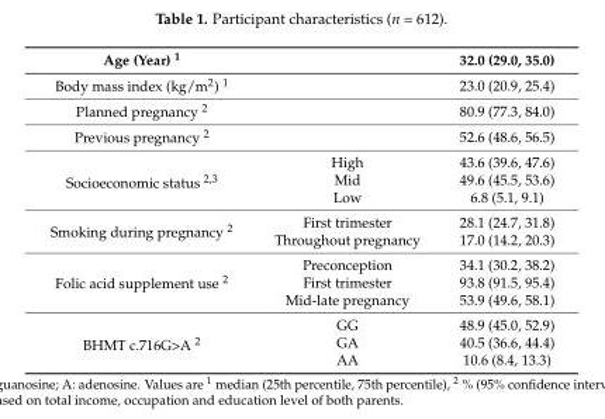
<table><thead><tr><td>Age (Year) <sup>1</sup></td><td></td><td>32.0 (29.0, 35.0)</td></tr></thead><tbody><tr><td>Body mass index (kg/m<sup>2</sup>) <sup>1</sup></td><td></td><td>23.0 (20.9, 25.4)</td></tr><tr><td>Planned pregnancy <sup>2</sup></td><td></td><td>80.9 (77.3, 84.0)</td></tr><tr><td>Previous pregnancy <sup>2</sup></td><td></td><td>52.6 (48.6, 56.5)</td></tr><tr><td rowspan="3">Socioeconomic status <sup>2,3</sup></td><td>High</td><td>43.6 (39.6, 47.6)</td></tr><tr><td>Mid</td><td>49.6 (45.5, 53.6)</td></tr><tr><td>Low</td><td>6.8 (5.1, 9.1)</td></tr><tr><td rowspan="2">Smoking during pregnancy <sup>2</sup></td><td>First trimester</td><td>28.1 (24.7, 31.8)</td></tr><tr><td>Throughout pregnancy</td><td>17.0 (14.2, 20.3)</td></tr><tr><td rowspan="3">Folic acid supplement use <sup>2</sup></td><td>Preconception</td><td>34.1 (30.2, 38.2)</td></tr><tr><td>First trimester</td><td>93.8 (91.5, 95.4)</td></tr><tr><td>Mid-late pregnancy</td><td>53.9 (49.6, 58.1)</td></tr><tr><td rowspan="3">BHMT c.716G&gt;A <sup>2</sup></td><td>GG</td><td>48.9 (45.0, 52.9)</td></tr><tr><td>GA</td><td>40.5 (36.6, 44.4)</td></tr><tr><td>AA</td><td>10.6 (8.4, 13.3)</td></tr></tbody></table>